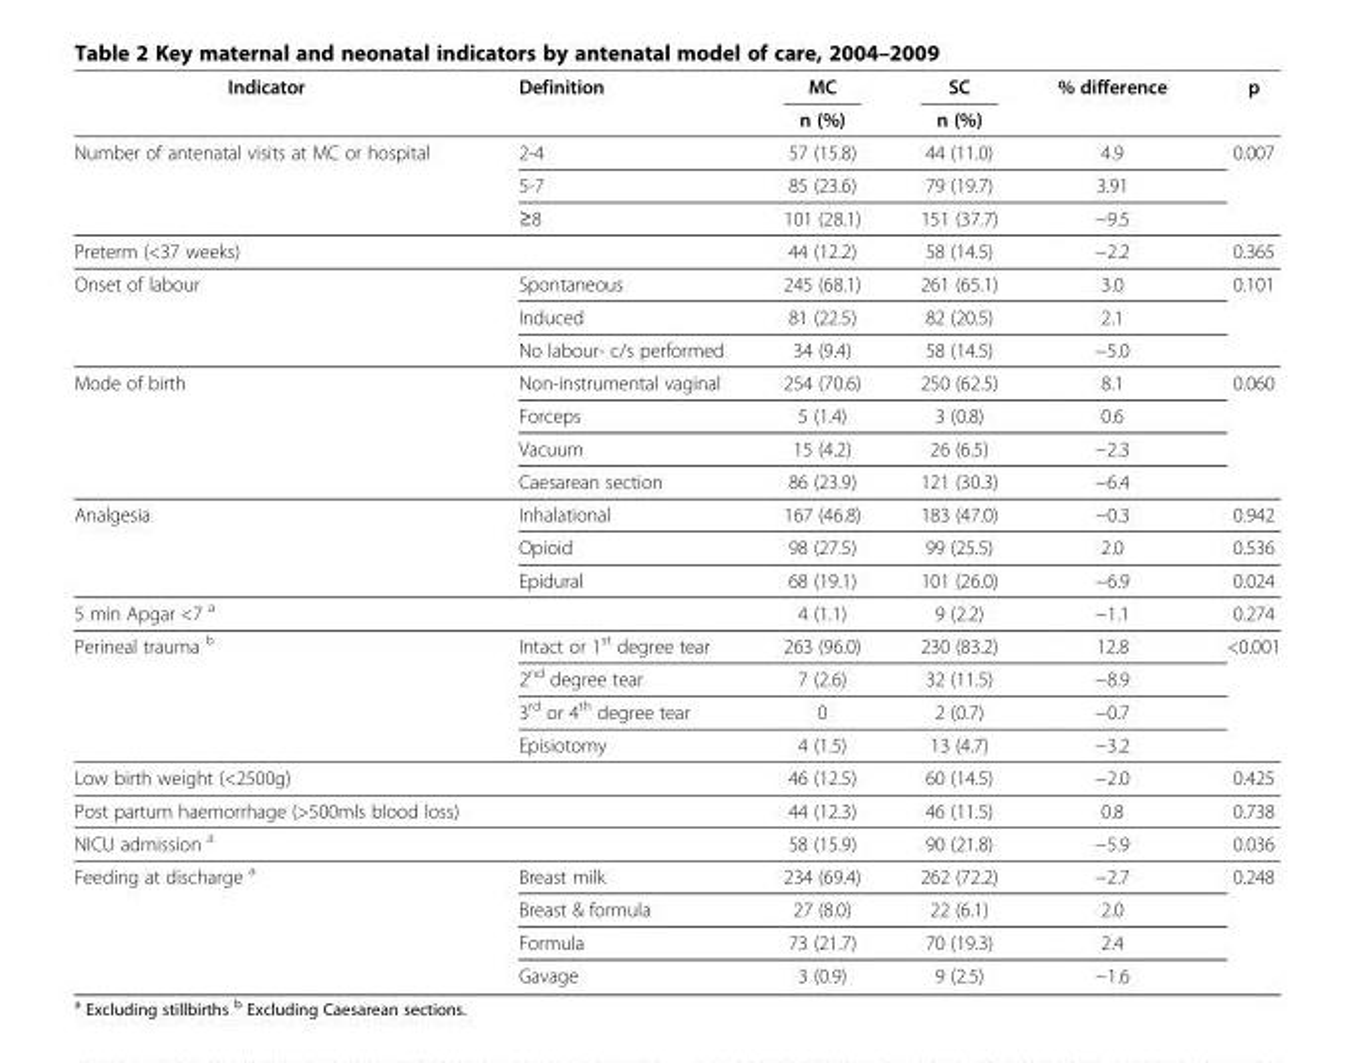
<table><thead><tr><td rowspan="2">Indicator</td><td rowspan="2">Definition</td><td rowspan="2">MC n (%)</td><td rowspan="2">SC n (%)</td><td rowspan="2">% difference</td><td rowspan="2">p</td></tr><tr></tr></thead><tbody><tr><td rowspan="3">Number of antenatal visits at MC or hospital</td><td>2-4</td><td>57 (15.8)</td><td>44 (11.0)</td><td>4.9</td><td rowspan="3">0.007</td></tr><tr><td>5-7</td><td>85 (23.6)</td><td>79 (19.7)</td><td>3.91</td></tr><tr><td>≥8</td><td>101 (28.1)</td><td>151 (37.7)</td><td>−9.5</td></tr><tr><td>Preterm (&lt;37 weeks)</td><td></td><td>44 (12.2)</td><td>58 (14.5)</td><td>−2.2</td><td>0.365</td></tr><tr><td rowspan="3">Onset of labour</td><td>Spontaneous</td><td>245 (68.1)</td><td>261 (65.1)</td><td>3.0</td><td rowspan="3">0.101</td></tr><tr><td>Induced</td><td>81 (22.5)</td><td>82 (20.5)</td><td>2.1</td></tr><tr><td>No labour- c/s performed</td><td>34 (9.4)</td><td>58 (14.5)</td><td>−5.0</td></tr><tr><td rowspan="4">Mode of birth</td><td>Non-instrumental vaginal</td><td>254 (70.6)</td><td>250 (62.5)</td><td>8.1</td><td rowspan="4">0.060</td></tr><tr><td>Forceps</td><td>5 (1.4)</td><td>3 (0.8)</td><td>0.6</td></tr><tr><td>Vacuum</td><td>15 (4.2)</td><td>26 (6.5)</td><td>−2.3</td></tr><tr><td>Caesarean section</td><td>86 (23.9)</td><td>121 (30.3)</td><td>−6.4</td></tr><tr><td rowspan="3">Analgesia</td><td>Inhalational</td><td>167 (46.8)</td><td>183 (47.0)</td><td>−0.3</td><td>0.942</td></tr><tr><td>Opioid</td><td>98 (27.5)</td><td>99 (25.5)</td><td>2.0</td><td>0.536</td></tr><tr><td>Epidural</td><td>68 (19.1)</td><td>101 (26.0)</td><td>−6.9</td><td>0.024</td></tr><tr><td>5 min Apgar &lt;7 <sup>a</sup></td><td></td><td>4 (1.1)</td><td>9 (2.2)</td><td>−1.1</td><td>0.274</td></tr><tr><td rowspan="4">Perineal trauma <sup>b</sup></td><td>Intact or 1<sup>st</sup> degree tear</td><td>263 (96.0)</td><td>230 (83.2)</td><td>12.8</td><td rowspan="4">&lt;0.001</td></tr><tr><td>2<sup>nd</sup> degree tear</td><td>7 (2.6)</td><td>32 (11.5)</td><td>−8.9</td></tr><tr><td>3<sup>rd</sup> or 4<sup>th</sup> degree tear</td><td>0</td><td>2 (0.7)</td><td>−0.7</td></tr><tr><td>Episiotomy</td><td>4 (1.5)</td><td>13 (4.7)</td><td>−3.2</td></tr><tr><td>Low birth weight (&lt;2500g)</td><td></td><td>46 (12.5)</td><td>60 (14.5)</td><td>−2.0</td><td>0.425</td></tr><tr><td>Post partum haemorrhage (&gt;500mls blood loss)</td><td></td><td>44 (12.3)</td><td>46 (11.5)</td><td>0.8</td><td>0.738</td></tr><tr><td>NICU admission <sup>a</sup></td><td></td><td>58 (15.9)</td><td>90 (21.8)</td><td>−5.9</td><td>0.036</td></tr><tr><td rowspan="4">Feeding at discharge <sup>a</sup></td><td>Breast milk</td><td>234 (69.4)</td><td>262 (72.2)</td><td>−2.7</td><td rowspan="4">0.248</td></tr><tr><td>Breast &amp; formula</td><td>27 (8.0)</td><td>22 (6.1)</td><td>2.0</td></tr><tr><td>Formula</td><td>73 (21.7)</td><td>70 (19.3)</td><td>2.4</td></tr><tr><td>Gavage</td><td>3 (0.9)</td><td>9 (2.5)</td><td>−1.6</td></tr></tbody></table>